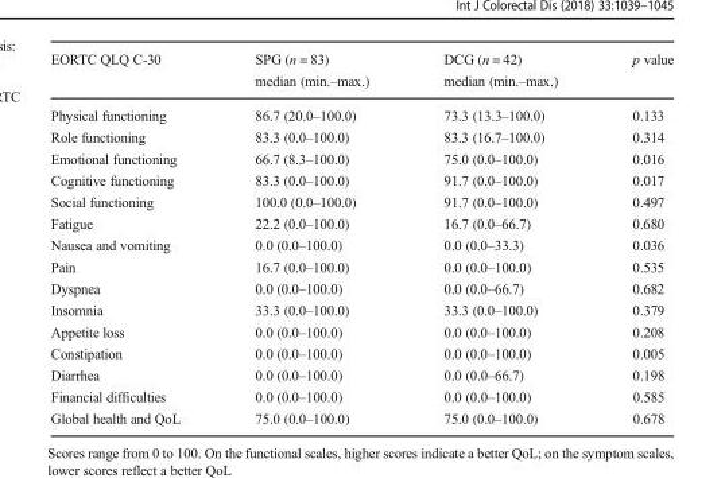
<table><thead><tr><td>EORTC QLQ C-30</td><td>SPG (n = 83) median (min.–max.)</td><td>DCG (n = 42) median (min.–max.)</td><td>p value</td></tr></thead><tbody><tr><td>Physical functioning</td><td>86.7 (20.0–100.0)</td><td>73.3 (13.3–100.0)</td><td>0.133</td></tr><tr><td>Role functioning</td><td>83.3 (0.0–100.0)</td><td>83.3 (16.7–100.0)</td><td>0.314</td></tr><tr><td>Emotional functioning</td><td>66.7 (8.3–100.0)</td><td>75.0 (0.0–100.0)</td><td>0.016</td></tr><tr><td>Cognitive functioning</td><td>83.3 (0.0–100.0)</td><td>91.7 (0.0–100.0)</td><td>0.017</td></tr><tr><td>Social functioning</td><td>100.0 (0.0–100.0)</td><td>91.7 (0.0–100.0)</td><td>0.497</td></tr><tr><td>Fatigue</td><td>22.2 (0.0–100.0)</td><td>16.7 (0.0–66.7)</td><td>0.680</td></tr><tr><td>Nausea and vomiting</td><td>0.0 (0.0–100.0)</td><td>0.0 (0.0–33.3)</td><td>0.036</td></tr><tr><td>Pain</td><td>16.7 (0.0–100.0)</td><td>0.0 (0.0–100.0)</td><td>0.535</td></tr><tr><td>Dyspnea</td><td>0.0 (0.0–100.0)</td><td>0.0 (0.0–66.7)</td><td>0.682</td></tr><tr><td>Insomnia</td><td>33.3 (0.0–100.0)</td><td>33.3 (0.0–100.0)</td><td>0.379</td></tr><tr><td>Appetite loss</td><td>0.0 (0.0–100.0)</td><td>0.0 (0.0–100.0)</td><td>0.208</td></tr><tr><td>Constipation</td><td>0.0 (0.0–100.0)</td><td>0.0 (0.0–100.0)</td><td>0.005</td></tr><tr><td>Diarrhea</td><td>0.0 (0.0–100.0)</td><td>0.0 (0.0–66.7)</td><td>0.198</td></tr><tr><td>Financial difficulties</td><td>0.0 (0.0–100.0)</td><td>0.0 (0.0–100.0)</td><td>0.585</td></tr><tr><td>Global health and QoL</td><td>75.0 (0.0–100.0)</td><td>75.0 (0.0–100.0)</td><td>0.678</td></tr></tbody></table>